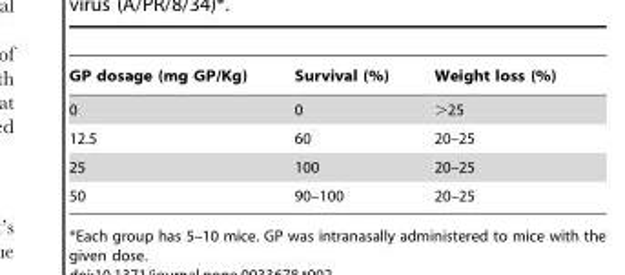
<table><thead><tr><td>GP dosage (mg GP/Kg)</td><td>Survival (%)</td><td>Weight loss (%)</td></tr></thead><tbody><tr><td>0</td><td>0</td><td>&gt;25</td></tr><tr><td>12.5</td><td>60</td><td>20–25</td></tr><tr><td>25</td><td>100</td><td>20–25</td></tr><tr><td>50</td><td>90–100</td><td>20–25</td></tr></tbody></table>